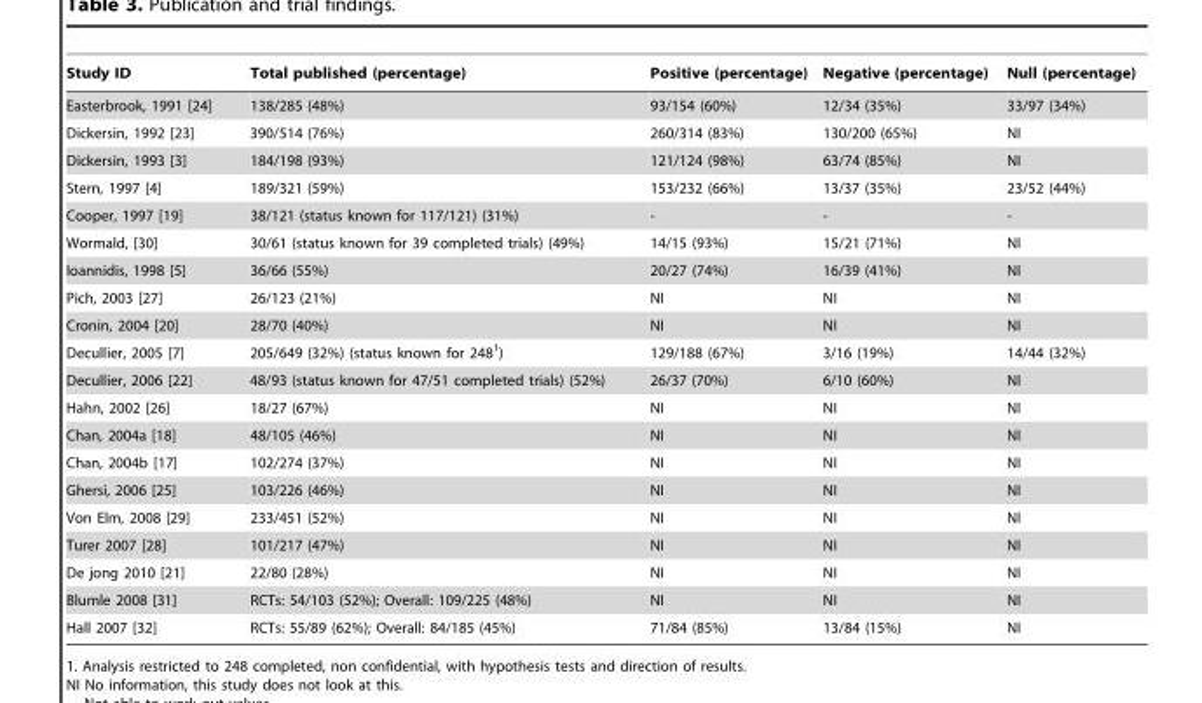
<table><thead><tr><td>Study ID</td><td>Total published (percentage)</td><td>Positive (percentage)</td><td>Negative (percentage)</td><td>Null (percentage)</td></tr></thead><tbody><tr><td>Easterbrook, 1991 [24]</td><td>138/285 (48%)</td><td>93/154 (60%)</td><td>12/34 (35%)</td><td>33/97 (34%)</td></tr><tr><td>Dickersin, 1992 [23]</td><td>390/514 (76%)</td><td>260/314 (83%)</td><td>130/200 (65%)</td><td>NI</td></tr><tr><td>Dickersin, 1993 [3]</td><td>184/198 (93%)</td><td>121/124 (98%)</td><td>63/74 (85%)</td><td>NI</td></tr><tr><td>Stern, 1997 [4]</td><td>189/321 (59%)</td><td>153/232 (66%)</td><td>13/37 (35%)</td><td>23/52 (44%)</td></tr><tr><td>Cooper, 1997 [19]</td><td>38/121 (status known for 117/121) (31%)</td><td>-</td><td>-</td><td>-</td></tr><tr><td>Wormald, [30]</td><td>30/61 (status known for 39 completed trials) (49%)</td><td>14/15 (93%)</td><td>15/21 (71%)</td><td>NI</td></tr><tr><td>Ioannidis, 1998 [5]</td><td>36/66 (55%)</td><td>20/27 (74%)</td><td>16/39 (41%)</td><td>NI</td></tr><tr><td>Pich, 2003 [27]</td><td>26/123 (21%)</td><td>NI</td><td>NI</td><td>NI</td></tr><tr><td>Cronin, 2004 [20]</td><td>28/70 (40%)</td><td>NI</td><td>NI</td><td>NI</td></tr><tr><td>Decullier, 2005 [7]</td><td>205/649 (32%) (status known for 248<sup>1</sup>)</td><td>129/188 (67%)</td><td>3/16 (19%)</td><td>14/44 (32%)</td></tr><tr><td>Decullier, 2006 [22]</td><td>48/93 (status known for 47/51 completed trials) (52%)</td><td>26/37 (70%)</td><td>6/10 (60%)</td><td>NI</td></tr><tr><td>Hahn, 2002 [26]</td><td>18/27 (67%)</td><td>NI</td><td>NI</td><td>NI</td></tr><tr><td>Chan, 2004a [18]</td><td>48/105 (46%)</td><td>NI</td><td>NI</td><td>NI</td></tr><tr><td>Chan, 2004b [17]</td><td>102/274 (37%)</td><td>NI</td><td>NI</td><td>NI</td></tr><tr><td>Ghersi, 2006 [25]</td><td>103/226 (46%)</td><td>NI</td><td>NI</td><td>NI</td></tr><tr><td>Von Elm, 2008 [29]</td><td>233/451 (52%)</td><td>NI</td><td>NI</td><td>NI</td></tr><tr><td>Turer 2007 [28]</td><td>101/217 (47%)</td><td>NI</td><td>NI</td><td>NI</td></tr><tr><td>De jong 2010 [21]</td><td>22/80 (28%)</td><td>NI</td><td>NI</td><td>NI</td></tr><tr><td>Blumle 2008 [31]</td><td>RCTs: 54/103 (52%); Overall: 109/225 (48%)</td><td>NI</td><td>NI</td><td>NI</td></tr><tr><td>Hall 2007 [32]</td><td>RCTs: 55/89 (62%); Overall: 84/185 (45%)</td><td>71/84 (85%)</td><td>13/84 (15%)</td><td>NI</td></tr></tbody></table>